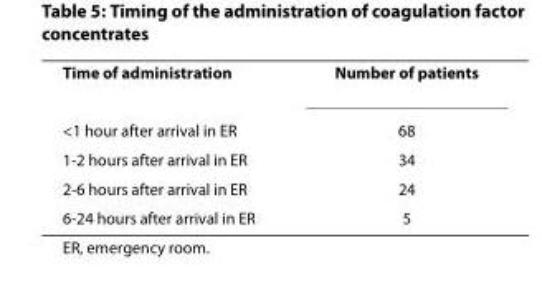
<table><tbody><tr><td>Time of administration</td><td>Number of patients</td></tr><tr><td>&lt;1 hour after arrival in ER</td><td>68</td></tr><tr><td>1-2 hours after arrival in ER</td><td>34</td></tr><tr><td>2-6 hours after arrival in ER</td><td>24</td></tr><tr><td>6-24 hours after arrival in ER</td><td>5</td></tr></tbody></table>